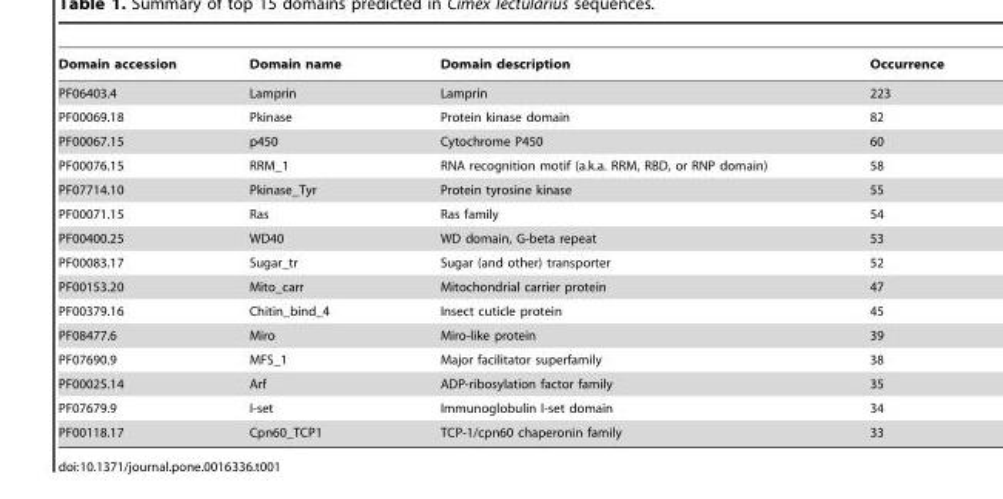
<table><thead><tr><td>Domain accession</td><td>Domain name</td><td>Domain description</td><td>Occurrence</td></tr></thead><tbody><tr><td>PF06403.4</td><td>Lamprin</td><td>Lamprin</td><td>223</td></tr><tr><td>PF00069.18</td><td>Pkinase</td><td>Protein kinase domain</td><td>82</td></tr><tr><td>PF00067.15</td><td>p450</td><td>Cytochrome P450</td><td>60</td></tr><tr><td>PF00076.15</td><td>RRM_1</td><td>RNA recognition motif (a.k.a. RRM, RBD, or RNP domain)</td><td>58</td></tr><tr><td>PF07714.10</td><td>Pkinase_Tyr</td><td>Protein tyrosine kinase</td><td>55</td></tr><tr><td>PF00071.15</td><td>Ras</td><td>Ras family</td><td>54</td></tr><tr><td>PF00400.25</td><td>WD40</td><td>WD domain, G-beta repeat</td><td>53</td></tr><tr><td>PF00083.17</td><td>Sugar_tr</td><td>Sugar (and other) transporter</td><td>52</td></tr><tr><td>PF00153.20</td><td>Mito_carr</td><td>Mitochondrial carrier protein</td><td>47</td></tr><tr><td>PF00379.16</td><td>Chitin_bind_4</td><td>Insect cuticle protein</td><td>45</td></tr><tr><td>PF08477.6</td><td>Miro</td><td>Miro-like protein</td><td>39</td></tr><tr><td>PF07690.9</td><td>MFS_1</td><td>Major facilitator superfamily</td><td>38</td></tr><tr><td>PF00025.14</td><td>Arf</td><td>ADP-ribosylation factor family</td><td>35</td></tr><tr><td>PF07679.9</td><td>I-set</td><td>Immunoglobulin I-set domain</td><td>34</td></tr><tr><td>PF00118.17</td><td>Cpn60_TCP1</td><td>TCP-1/cpn60 chaperonin family</td><td>33</td></tr></tbody></table>